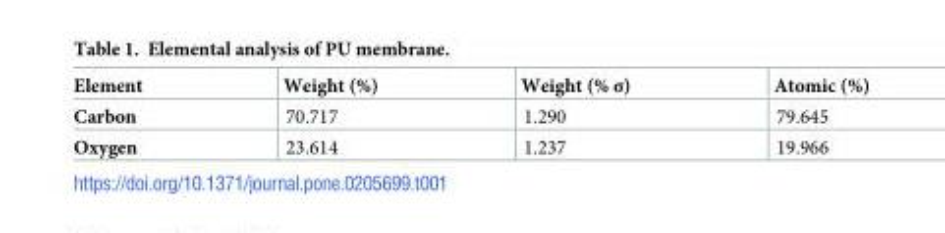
<table><thead><tr><td>Element</td><td>Weight (%)</td><td>Weight (% σ)</td><td>Atomic (%)</td></tr></thead><tbody><tr><td>Carbon</td><td>70.717</td><td>1.290</td><td>79.645</td></tr><tr><td>Oxygen</td><td>23.614</td><td>1.237</td><td>19.966</td></tr></tbody></table>